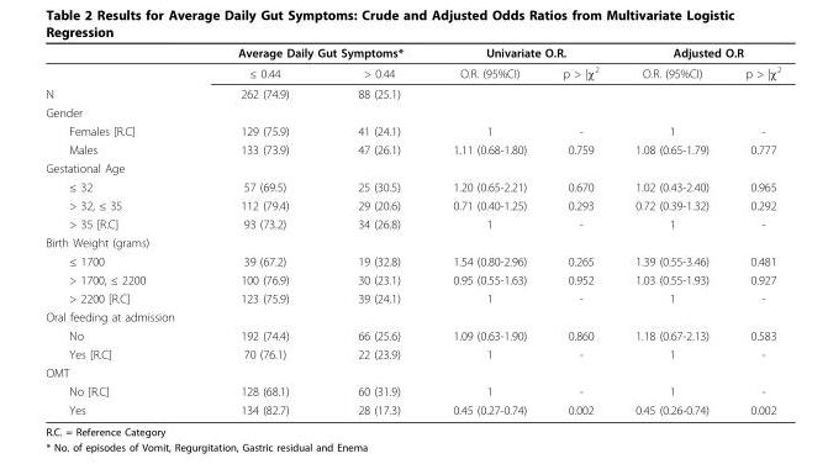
<table><thead><tr><td rowspan="2"></td><td colspan="2">Average Daily Gut Symptoms*</td><td colspan="2">Univariate O.R.</td><td colspan="2">Adjusted O.R</td></tr><tr><td>≤ 0.44</td><td>&gt; 0.44</td><td>O.R. (95%CI)</td><td>p &gt; |χ<sup>2</sup></td><td>O.R. (95%CI)</td><td>p &gt; |χ<sup>2</sup></td></tr></thead><tbody><tr><td>N</td><td>262 (74.9)</td><td>88 (25.1)</td><td></td><td></td><td></td><td></td></tr><tr><td colspan="7">Gender</td></tr><tr><td>Females [R.C]</td><td>129 (75.9)</td><td>41 (24.1)</td><td>1</td><td>-</td><td>1</td><td>-</td></tr><tr><td>Males</td><td>133 (73.9)</td><td>47 (26.1)</td><td>1.11 (0.68-1.80)</td><td>0.759</td><td>1.08 (0.65-1.79)</td><td>0.777</td></tr><tr><td colspan="7">Gestational Age</td></tr><tr><td>≤ 32</td><td>57 (69.5)</td><td>25 (30.5)</td><td>1.20 (0.65-2.21)</td><td>0.670</td><td>1.02 (0.43-2.40)</td><td>0.965</td></tr><tr><td>&gt; 32, ≤ 35</td><td>112 (79.4)</td><td>29 (20.6)</td><td>0.71 (0.40-1.25)</td><td>0.293</td><td>0.72 (0.39-1.32)</td><td>0.292</td></tr><tr><td>&gt; 35 [R.C]</td><td>93 (73.2)</td><td>34 (26.8)</td><td>1</td><td>-</td><td>1</td><td>-</td></tr><tr><td colspan="7">Birth Weight (grams)</td></tr><tr><td>≤ 1700</td><td>39 (67.2)</td><td>19 (32.8)</td><td>1.54 (0.80-2.96)</td><td>0.265</td><td>1.39 (0.55-3.46)</td><td>0.481</td></tr><tr><td>&gt; 1700, ≤ 2200</td><td>100 (76.9)</td><td>30 (23.1)</td><td>0.95 (0.55-1.63)</td><td>0.952</td><td>1.03 (0.55-1.93)</td><td>0.927</td></tr><tr><td>&gt; 2200 [R.C]</td><td>123 (75.9)</td><td>39 (24.1)</td><td>1</td><td>-</td><td>1</td><td>-</td></tr><tr><td colspan="7">Oral feeding at admission</td></tr><tr><td>No</td><td>192 (74.4)</td><td>66 (25.6)</td><td>1.09 (0.63-1.90)</td><td>0.860</td><td>1.18 (0.67-2.13)</td><td>0.583</td></tr><tr><td>Yes [R.C]</td><td>70 (76.1)</td><td>22 (23.9)</td><td>1</td><td>-</td><td>1</td><td>-</td></tr><tr><td colspan="7">OMT</td></tr><tr><td>No [R.C]</td><td>128 (68.1)</td><td>60 (31.9)</td><td>1</td><td>-</td><td>1</td><td>-</td></tr><tr><td>Yes</td><td>134 (82.7)</td><td>28 (17.3)</td><td>0.45 (0.27-0.74)</td><td>0.002</td><td>0.45 (0.26-0.74)</td><td>0.002</td></tr></tbody></table>